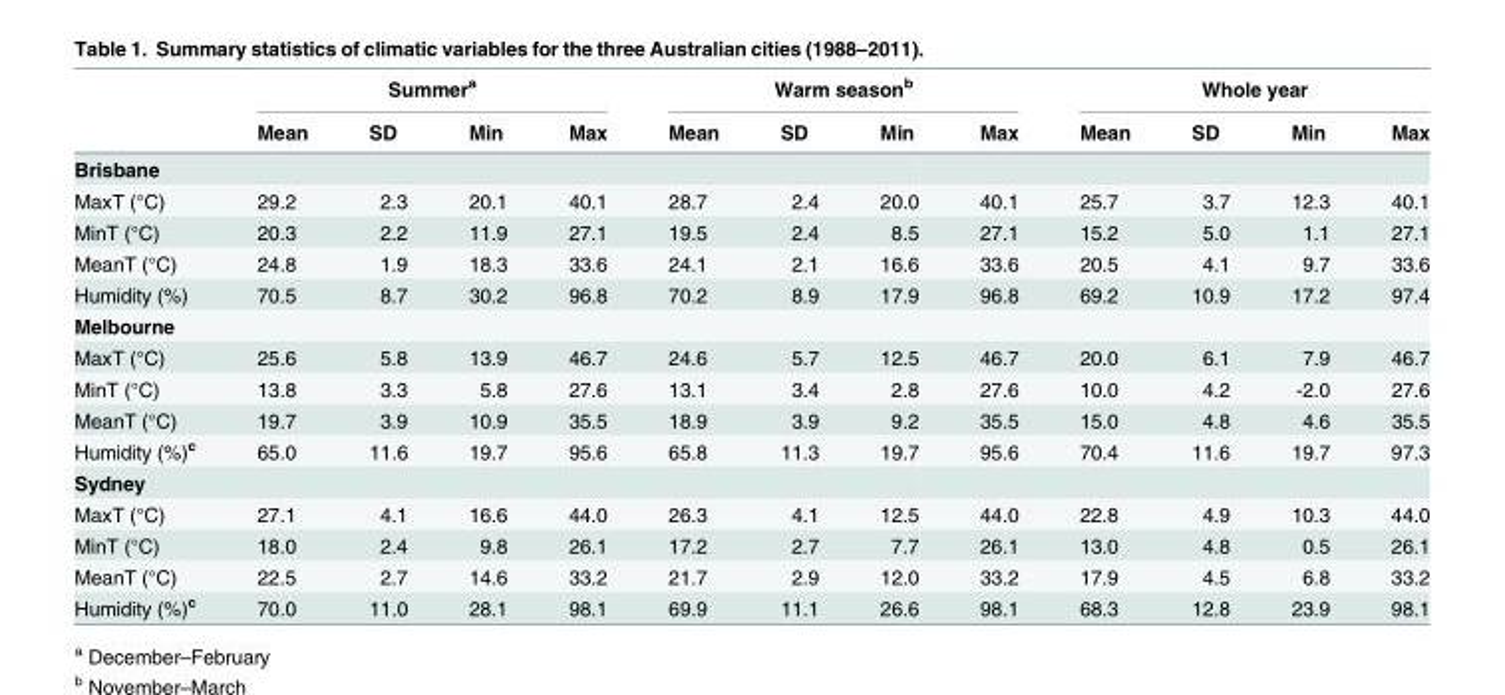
<table><thead><tr><td rowspan="2"></td><td colspan="4">Summer<sup>a</sup></td><td colspan="4">Warm season<sup>b</sup></td><td colspan="4">Whole year</td></tr><tr><td>Mean</td><td>SD</td><td>Min</td><td>Max</td><td>Mean</td><td>SD</td><td>Min</td><td>Max</td><td>Mean</td><td>SD</td><td>Min</td><td>Max</td></tr></thead><tbody><tr><td colspan="13">Brisbane</td></tr><tr><td>MaxT (°C)</td><td>29.2</td><td>2.3</td><td>20.1</td><td>40.1</td><td>28.7</td><td>2.4</td><td>20.0</td><td>40.1</td><td>25.7</td><td>3.7</td><td>12.3</td><td>40.1</td></tr><tr><td>MinT (°C)</td><td>20.3</td><td>2.2</td><td>11.9</td><td>27.1</td><td>19.5</td><td>2.4</td><td>8.5</td><td>27.1</td><td>15.2</td><td>5.0</td><td>1.1</td><td>27.1</td></tr><tr><td>MeanT (°C)</td><td>24.8</td><td>1.9</td><td>18.3</td><td>33.6</td><td>24.1</td><td>2.1</td><td>16.6</td><td>33.6</td><td>20.5</td><td>4.1</td><td>9.7</td><td>33.6</td></tr><tr><td>Humidity (%)</td><td>70.5</td><td>8.7</td><td>30.2</td><td>96.8</td><td>70.2</td><td>8.9</td><td>17.9</td><td>96.8</td><td>69.2</td><td>10.9</td><td>17.2</td><td>97.4</td></tr><tr><td colspan="13">Melbourne</td></tr><tr><td>MaxT (°C)</td><td>25.6</td><td>5.8</td><td>13.9</td><td>46.7</td><td>24.6</td><td>5.7</td><td>12.5</td><td>46.7</td><td>20.0</td><td>6.1</td><td>7.9</td><td>46.7</td></tr><tr><td>MinT (°C)</td><td>13.8</td><td>3.3</td><td>5.8</td><td>27.6</td><td>13.1</td><td>3.4</td><td>2.8</td><td>27.6</td><td>10.0</td><td>4.2</td><td>-2.0</td><td>27.6</td></tr><tr><td>MeanT (°C)</td><td>19.7</td><td>3.9</td><td>10.9</td><td>35.5</td><td>18.9</td><td>3.9</td><td>9.2</td><td>35.5</td><td>15.0</td><td>4.8</td><td>4.6</td><td>35.5</td></tr><tr><td>Humidity (%)<sup>c</sup></td><td>65.0</td><td>11.6</td><td>19.7</td><td>95.6</td><td>65.8</td><td>11.3</td><td>19.7</td><td>95.6</td><td>70.4</td><td>11.6</td><td>19.7</td><td>97.3</td></tr><tr><td colspan="13">Sydney</td></tr><tr><td>MaxT (°C)</td><td>27.1</td><td>4.1</td><td>16.6</td><td>44.0</td><td>26.3</td><td>4.1</td><td>12.5</td><td>44.0</td><td>22.8</td><td>4.9</td><td>10.3</td><td>44.0</td></tr><tr><td>MinT (°C)</td><td>18.0</td><td>2.4</td><td>9.8</td><td>26.1</td><td>17.2</td><td>2.7</td><td>7.7</td><td>26.1</td><td>13.0</td><td>4.8</td><td>0.5</td><td>26.1</td></tr><tr><td>MeanT (°C)</td><td>22.5</td><td>2.7</td><td>14.6</td><td>33.2</td><td>21.7</td><td>2.9</td><td>12.0</td><td>33.2</td><td>17.9</td><td>4.5</td><td>6.8</td><td>33.2</td></tr><tr><td>Humidity (%)<sup>c</sup></td><td>70.0</td><td>11.0</td><td>28.1</td><td>98.1</td><td>69.9</td><td>11.1</td><td>26.6</td><td>98.1</td><td>68.3</td><td>12.8</td><td>23.9</td><td>98.1</td></tr></tbody></table>